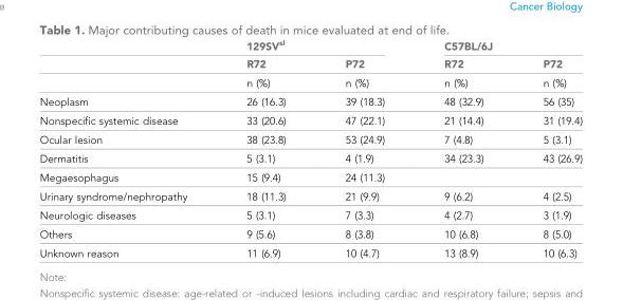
<table><thead><tr><td rowspan="2"></td><td colspan="2">129SV<sup>sl</sup></td><td colspan="2">C57BL/6J</td></tr><tr><td>R72</td><td>P72</td><td>R72</td><td>P72</td></tr></thead><tbody><tr><td></td><td>n (%)</td><td>n (%)</td><td>n (%)</td><td>n (%)</td></tr><tr><td>Neoplasm</td><td>26 (16.3)</td><td>39 (18.3)</td><td>48 (32.9)</td><td>56 (35)</td></tr><tr><td>Nonspecific systemic disease</td><td>33 (20.6)</td><td>47 (22.1)</td><td>21 (14.4)</td><td>31 (19.4)</td></tr><tr><td>Ocular lesion</td><td>38 (23.8)</td><td>53 (24.9)</td><td>7 (4.8)</td><td>5 (3.1)</td></tr><tr><td>Dermatitis</td><td>5 (3.1)</td><td>4 (1.9)</td><td>34 (23.3)</td><td>43 (26.9)</td></tr><tr><td>Megaesophagus</td><td>15 (9.4)</td><td>24 (11.3)</td><td></td><td></td></tr><tr><td>Urinary syndrome/nephropathy</td><td>18 (11.3)</td><td>21 (9.9)</td><td>9 (6.2)</td><td>4 (2.5)</td></tr><tr><td>Neurologic diseases</td><td>5 (3.1)</td><td>7 (3.3)</td><td>4 (2.7)</td><td>3 (1.9)</td></tr><tr><td>Others</td><td>9 (5.6)</td><td>8 (3.8)</td><td>10 (6.8)</td><td>8 (5.0)</td></tr><tr><td>Unknown reason</td><td>11 (6.9)</td><td>10 (4.7)</td><td>13 (8.9)</td><td>10 (6.3)</td></tr></tbody></table>